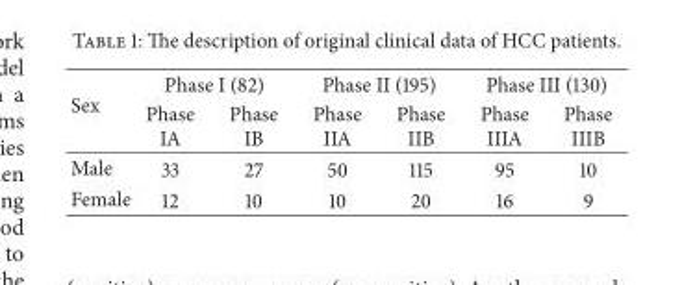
<table><thead><tr><td rowspan="2">Sex</td><td colspan="2">Phase I (82)</td><td colspan="2">Phase II (195)</td><td colspan="2">Phase III (130)</td></tr><tr><td>Phase IA</td><td>Phase IB</td><td>Phase IIA</td><td>Phase IIB</td><td>Phase IIIA</td><td>Phase IIIB</td></tr></thead><tbody><tr><td>Male</td><td>33</td><td>27</td><td>50</td><td>115</td><td>95</td><td>10</td></tr><tr><td>Female</td><td>12</td><td>10</td><td>10</td><td>20</td><td>16</td><td>9</td></tr></tbody></table>